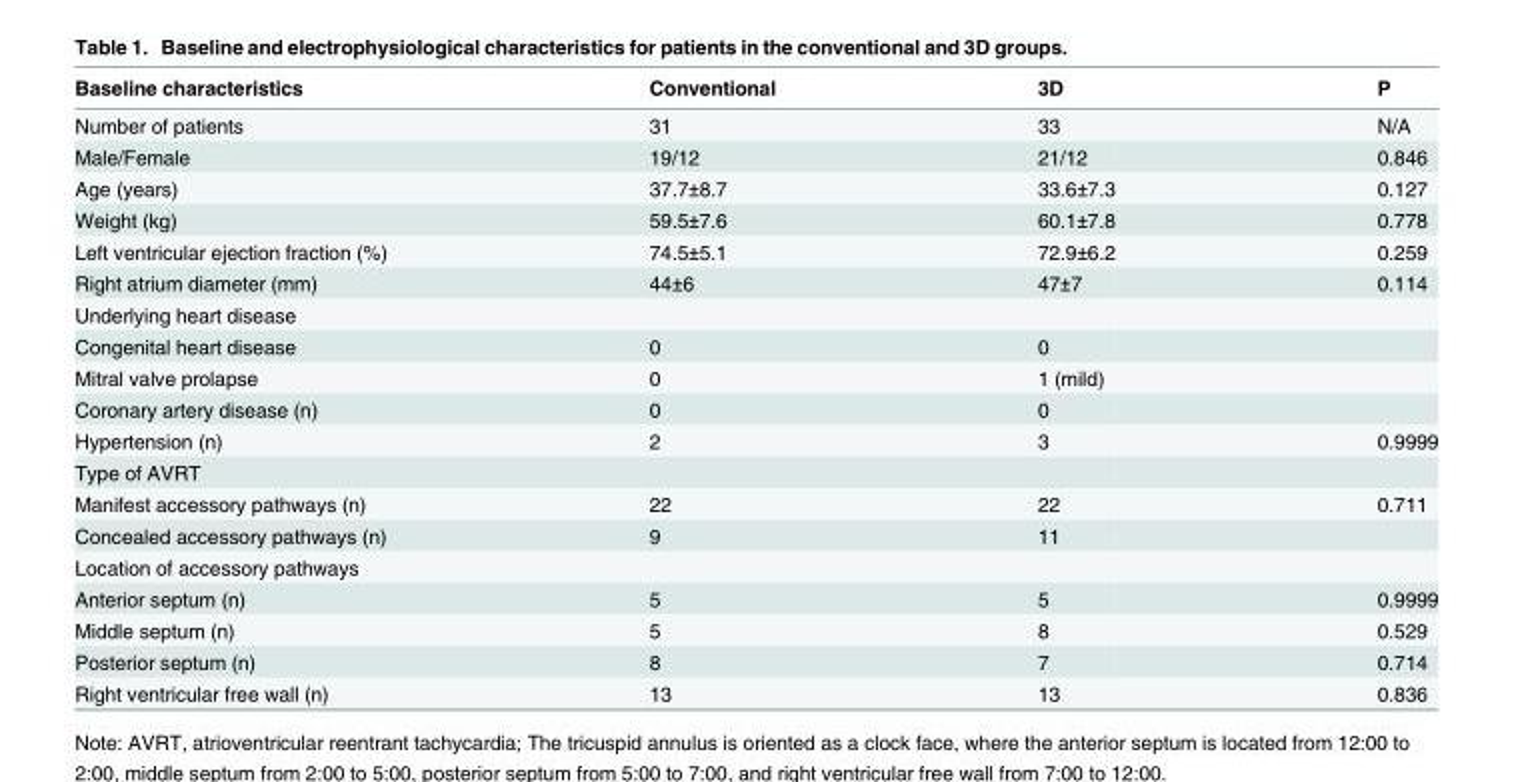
<table><thead><tr><td>Baseline characteristics</td><td>Conventional</td><td>3D</td><td>P</td></tr></thead><tbody><tr><td>Number of patients</td><td>31</td><td>33</td><td>N/A</td></tr><tr><td>Male/Female</td><td>19/12</td><td>21/12</td><td>0.846</td></tr><tr><td>Age (years)</td><td>37.7±8.7</td><td>33.6±7.3</td><td>0.127</td></tr><tr><td>Weight (kg)</td><td>59.5±7.6</td><td>60.1±7.8</td><td>0.778</td></tr><tr><td>Left ventricular ejection fraction (%)</td><td>74.5±5.1</td><td>72.9±6.2</td><td>0.259</td></tr><tr><td>Right atrium diameter (mm)</td><td>44±6</td><td>47±7</td><td>0.114</td></tr><tr><td colspan="4">Underlying heart disease</td></tr><tr><td>Congenital heart disease</td><td>0</td><td>0</td><td></td></tr><tr><td>Mitral valve prolapse</td><td>0</td><td>1 (mild)</td><td></td></tr><tr><td>Coronary artery disease (n)</td><td>0</td><td>0</td><td></td></tr><tr><td>Hypertension (n)</td><td>2</td><td>3</td><td>0.9999</td></tr><tr><td colspan="4">Type of AVRT</td></tr><tr><td>Manifest accessory pathways (n)</td><td>22</td><td>22</td><td>0.711</td></tr><tr><td>Concealed accessory pathways (n)</td><td>9</td><td>11</td><td></td></tr><tr><td colspan="4">Location of accessory pathways</td></tr><tr><td>Anterior septum (n)</td><td>5</td><td>5</td><td>0.9999</td></tr><tr><td>Middle septum (n)</td><td>5</td><td>8</td><td>0.529</td></tr><tr><td>Posterior septum (n)</td><td>8</td><td>7</td><td>0.714</td></tr><tr><td>Right ventricular free wall (n)</td><td>13</td><td>13</td><td>0.836</td></tr></tbody></table>